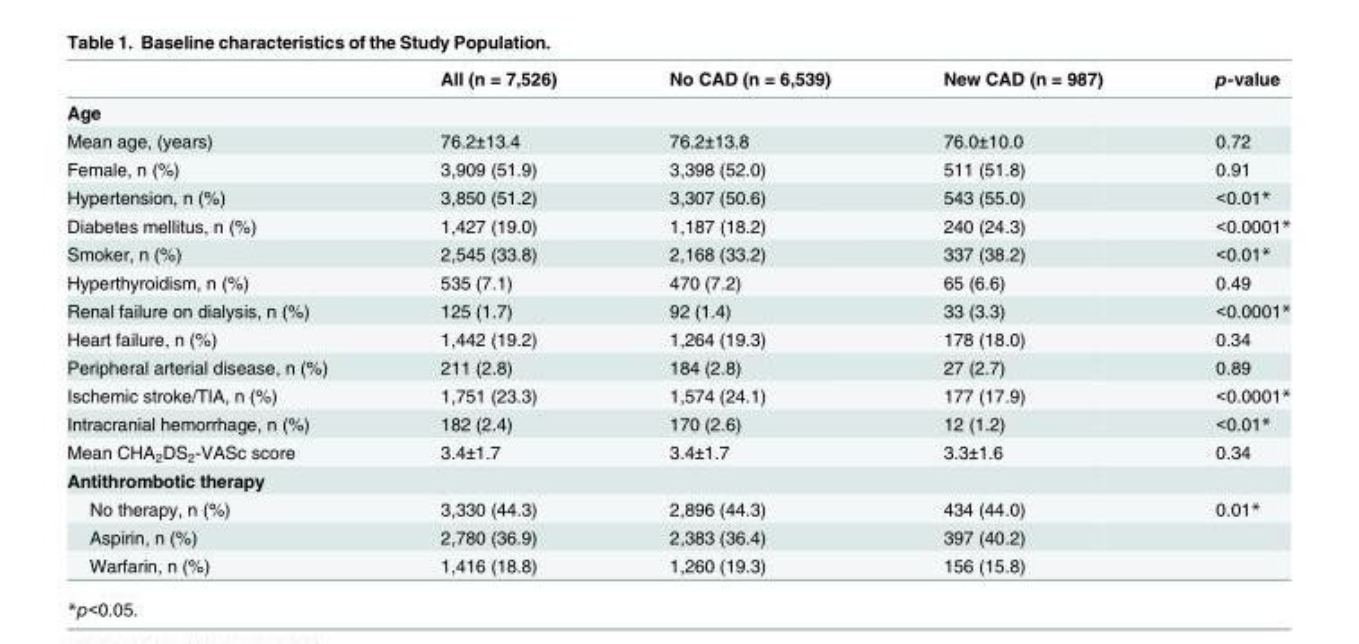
<table><thead><tr><td></td><td>All (n = 7,526)</td><td>No CAD (n = 6,539)</td><td>New CAD (n = 987)</td><td>p-value</td></tr></thead><tbody><tr><td colspan="5">Age</td></tr><tr><td>Mean age, (years)</td><td>76.2±13.4</td><td>76.2±13.8</td><td>76.0±10.0</td><td>0.72</td></tr><tr><td>Female, n (%)</td><td>3,909 (51.9)</td><td>3,398 (52.0)</td><td>511 (51.8)</td><td>0.91</td></tr><tr><td>Hypertension, n (%)</td><td>3,850 (51.2)</td><td>3,307 (50.6)</td><td>543 (55.0)</td><td>&lt;0.01*</td></tr><tr><td>Diabetes mellitus, n (%)</td><td>1,427 (19.0)</td><td>1,187 (18.2)</td><td>240 (24.3)</td><td>&lt;0.0001*</td></tr><tr><td>Smoker, n (%)</td><td>2,545 (33.8)</td><td>2,168 (33.2)</td><td>337 (38.2)</td><td>&lt;0.01*</td></tr><tr><td>Hyperthyroidism, n (%)</td><td>535 (7.1)</td><td>470 (7.2)</td><td>65 (6.6)</td><td>0.49</td></tr><tr><td>Renal failure on dialysis, n (%)</td><td>125 (1.7)</td><td>92 (1.4)</td><td>33 (3.3)</td><td>&lt;0.0001*</td></tr><tr><td>Heart failure, n (%)</td><td>1,442 (19.2)</td><td>1,264 (19.3)</td><td>178 (18.0)</td><td>0.34</td></tr><tr><td>Peripheral arterial disease, n (%)</td><td>211 (2.8)</td><td>184 (2.8)</td><td>27 (2.7)</td><td>0.89</td></tr><tr><td>Ischemic stroke/TIA, n (%)</td><td>1,751 (23.3)</td><td>1,574 (24.1)</td><td>177 (17.9)</td><td>&lt;0.0001*</td></tr><tr><td>Intracranial hemorrhage, n (%)</td><td>182 (2.4)</td><td>170 (2.6)</td><td>12 (1.2)</td><td>&lt;0.01*</td></tr><tr><td>Mean CHA<sub>2</sub>DS<sub>2</sub>-VASc score</td><td>3.4±1.7</td><td>3.4±1.7</td><td>3.3±1.6</td><td>0.34</td></tr><tr><td colspan="5">Antithrombotic therapy</td></tr><tr><td>No therapy, n (%)</td><td>3,330 (44.3)</td><td>2,896 (44.3)</td><td>434 (44.0)</td><td>0.01*</td></tr><tr><td>Aspirin, n (%)</td><td>2,780 (36.9)</td><td>2,383 (36.4)</td><td>397 (40.2)</td><td></td></tr><tr><td>Warfarin, n (%)</td><td>1,416 (18.8)</td><td>1,260 (19.3)</td><td>156 (15.8)</td><td></td></tr></tbody></table>